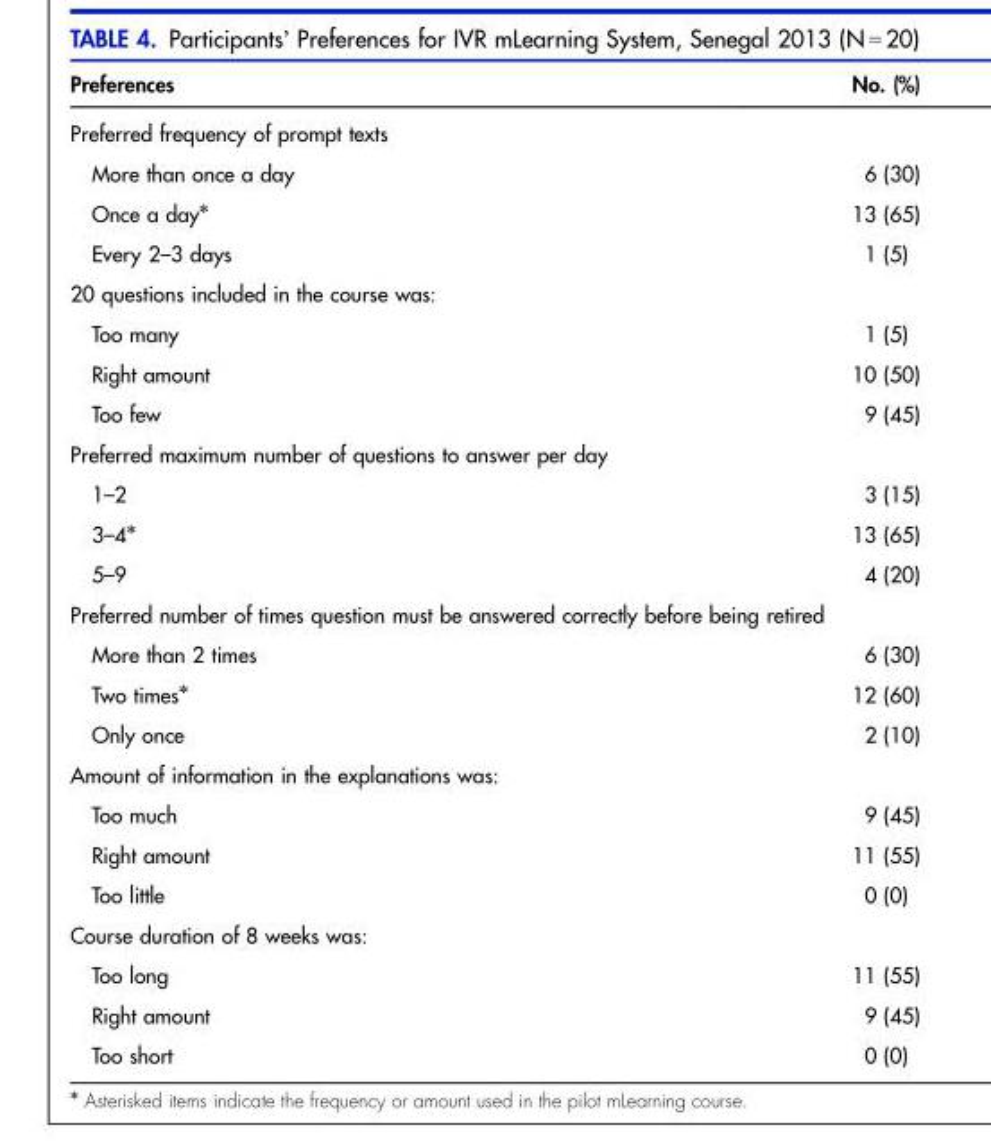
<table><thead><tr><td>Preferences</td><td>No. (%)</td></tr></thead><tbody><tr><td colspan="2">Preferred frequency of prompt texts</td></tr><tr><td>More than once a day</td><td>6 (30)</td></tr><tr><td>Once a dayn</td><td>13 (65)</td></tr><tr><td>Every 2–3 days</td><td>1 (5)</td></tr><tr><td colspan="2">20 questions included in the course was:</td></tr><tr><td>Too many</td><td>1 (5)</td></tr><tr><td>Right amount</td><td>10 (50)</td></tr><tr><td>Too few</td><td>9 (45)</td></tr><tr><td colspan="2">Preferred maximum number of questions to answer per day</td></tr><tr><td>1–2</td><td>3 (15)</td></tr><tr><td>3–4n</td><td>13 (65)</td></tr><tr><td>5–9</td><td>4 (20)</td></tr><tr><td colspan="2">Preferred number of times question must be answered correctly before being retired</td></tr><tr><td>More than 2 times</td><td>6 (30)</td></tr><tr><td>Two timesn</td><td>12 (60)</td></tr><tr><td>Only once</td><td>2 (10)</td></tr><tr><td colspan="2">Amount of information in the explanations was:</td></tr><tr><td>Too much</td><td>9 (45)</td></tr><tr><td>Right amount</td><td>11 (55)</td></tr><tr><td>Too little</td><td>0 (0)</td></tr><tr><td colspan="2">Course duration of 8 weeks was:</td></tr><tr><td>Too long</td><td>11 (55)</td></tr><tr><td>Right amount</td><td>9 (45)</td></tr><tr><td>Too short</td><td>0 (0)</td></tr></tbody></table>